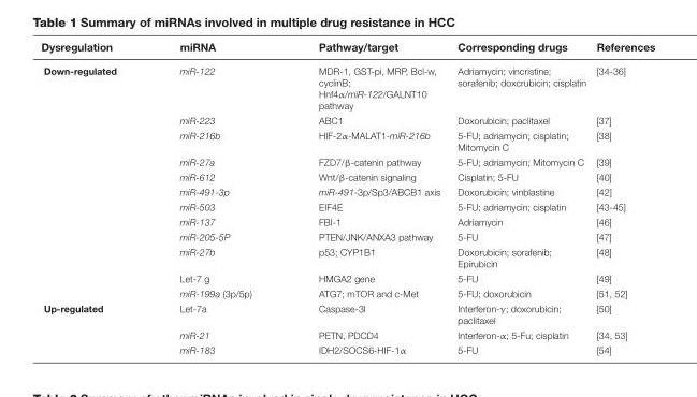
<table><thead><tr><td>Dysregulation</td><td>miRNA</td><td>Pathway/target</td><td>Corresponding drugs</td><td>References</td></tr></thead><tbody><tr><td rowspan="12">Down-regulated</td><td>miR-122</td><td>MDR-1, GST-pi, MRP, Bcl-w, cyclinB; Hnf4α/miR-122/GALNT10 pathway</td><td>Adriamycin; vincristine; sorafenib; doxcrubicin; cisplatin</td><td>[34-36]</td></tr><tr><td>miR-223</td><td>ABC1</td><td>Doxorubicin; paclitaxel</td><td>[37]</td></tr><tr><td>miR-216b</td><td>HIF-2α-MALAT1-miR-216b</td><td>5-FU; adriamycin; cisplatin; Mitomycin C</td><td>[38]</td></tr><tr><td>miR-27a</td><td>FZD7/β-catenin pathway</td><td>5-FU; adriamycin; Mitomycin C</td><td>[39]</td></tr><tr><td>miR-612</td><td>Wnt/β-catenin signaling</td><td>Cisplatin; 5-FU</td><td>[40]</td></tr><tr><td>miR-491-3p</td><td>miR-491-3p/Sp3/ABCB1 axis</td><td>Doxorubicin; vinblastine</td><td>[42]</td></tr><tr><td>miR-503</td><td>EIF4E</td><td>5-FU; adriamycin; cisplatin</td><td>[43-45]</td></tr><tr><td>miR-137</td><td>FBI-1</td><td>Adriamycin</td><td>[46]</td></tr><tr><td>miR-205-5P</td><td>PTEN/JNK/ANXA3 pathway</td><td>5-FU</td><td>[47]</td></tr><tr><td>miR-27b</td><td>p53; CYP1B1</td><td>Doxorubicin; sorafenib; Epirubicin</td><td>[48]</td></tr><tr><td>Let-7 g</td><td>HMGA2 gene</td><td>5-FU</td><td>[49]</td></tr><tr><td>miR-199a (3p/5p)</td><td>ATG7; mTOR and c-Met</td><td>5-FU; doxorubicin</td><td>[51, 52]</td></tr><tr><td rowspan="3">Up-regulated</td><td>Let-7a</td><td>Caspase-3I</td><td>Interferon-γ; doxorubicin; paclitaxel</td><td>[50]</td></tr><tr><td>miR-21</td><td>PETN, PDCD4</td><td>Interferon-α; 5-Fu; cisplatin</td><td>[34, 53]</td></tr><tr><td>miR-183</td><td>IDH2/SOCS6-HIF-1α</td><td>5-FU</td><td>[54]</td></tr></tbody></table>